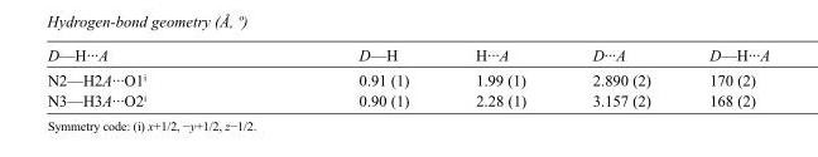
<table><tbody><tr><td>D—H···A</td><td>D—H</td><td>H···A</td><td>D···A</td><td>D—H···A</td></tr><tr><td>N2—H2A···O1<sup>i</sup></td><td>0.91 (1)</td><td>1.99 (1)</td><td>2.890 (2)</td><td>170 (2)</td></tr><tr><td>N3—H3A···O2<sup>i</sup></td><td>0.90 (1)</td><td>2.28 (1)</td><td>3.157 (2)</td><td>168 (2)</td></tr></tbody></table>